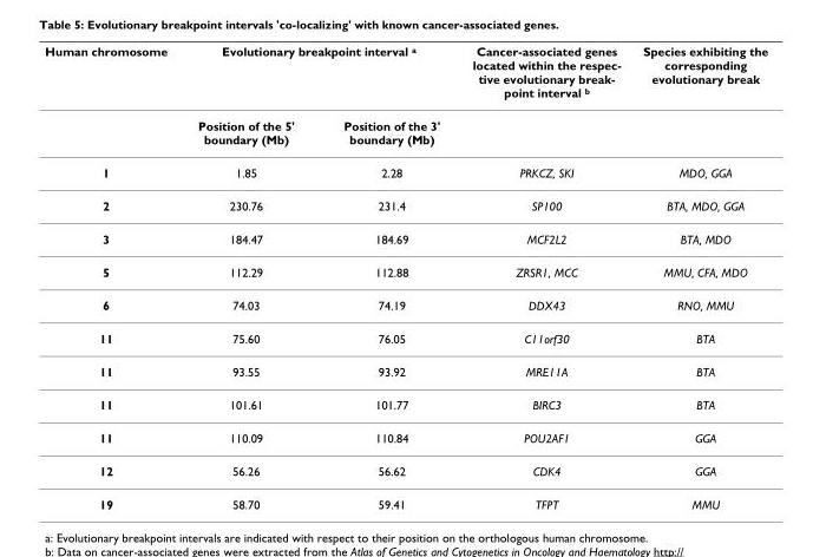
<table><thead><tr><td rowspan="2">Human chromosome</td><td colspan="2">Evolutionary breakpoint interval <sup>a</sup></td><td rowspan="2">Cancer-associated genes located within the respec- tive evolutionary break- point interval b</td><td rowspan="2">Species exhibiting the corresponding evolutionary break</td></tr><tr><td>Position of the 5&#x27; boundary (Mb)</td><td>Position of the 3&#x27; boundary (Mb)</td></tr></thead><tbody><tr><td>1</td><td>1.85</td><td>2.28</td><td>PRKCZ, SKI</td><td>MDO, GGA</td></tr><tr><td>2</td><td>230.76</td><td>231.4</td><td>SP100</td><td>BTA, MDO, GGA</td></tr><tr><td>3</td><td>184.47</td><td>184.69</td><td>MCF2L2</td><td>BTA, MDO</td></tr><tr><td>5</td><td>112.29</td><td>112.88</td><td>ZRSR1, MCC</td><td>MMU, CFA, MDO</td></tr><tr><td>6</td><td>74.03</td><td>74.19</td><td>DDX43</td><td>RNO, MMU</td></tr><tr><td>11</td><td>75.60</td><td>76.05</td><td>C11orf30</td><td>BTA</td></tr><tr><td>11</td><td>93.55</td><td>93.92</td><td>MRE11A</td><td>BTA</td></tr><tr><td>11</td><td>101.61</td><td>101.77</td><td>BIRC3</td><td>BTA</td></tr><tr><td>11</td><td>110.09</td><td>110.84</td><td>POU2AF1</td><td>GGA</td></tr><tr><td>12</td><td>56.26</td><td>56.62</td><td>CDK4</td><td>GGA</td></tr><tr><td>19</td><td>58.70</td><td>59.41</td><td>TFPT</td><td>MMU</td></tr></tbody></table>